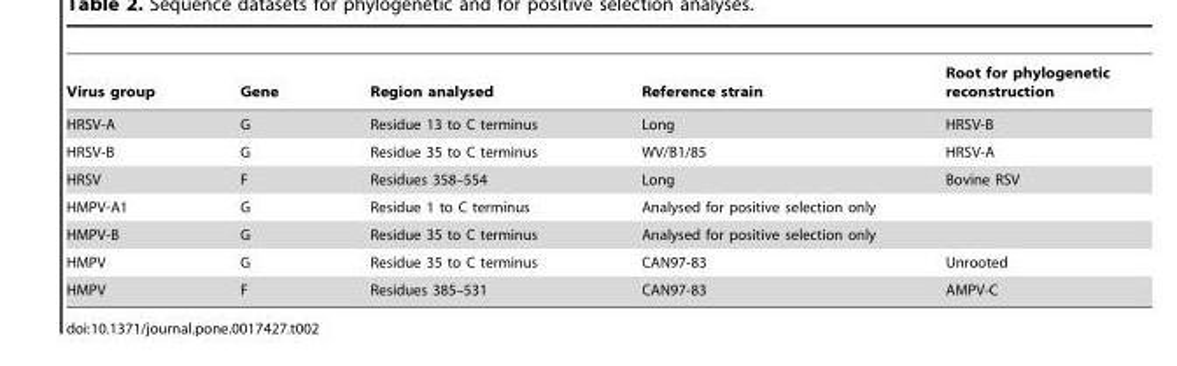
<table><thead><tr><td>Virus group</td><td>Gene</td><td>Region analysed</td><td>Reference strain</td><td>Root for phylogenetic reconstruction</td></tr></thead><tbody><tr><td>HRSV-A</td><td>G</td><td>Residue 13 to C terminus</td><td>Long</td><td>HRSV-B</td></tr><tr><td>HRSV-B</td><td>G</td><td>Residue 35 to C terminus</td><td>WV/B1/85</td><td>HRSV-A</td></tr><tr><td>HRSV</td><td>F</td><td>Residues 358–554</td><td>Long</td><td>Bovine RSV</td></tr><tr><td>HMPV-A1</td><td>G</td><td>Residue 1 to C terminus</td><td colspan="2">Analysed for positive selection only</td></tr><tr><td>HMPV-B</td><td>G</td><td>Residue 35 to C terminus</td><td colspan="2">Analysed for positive selection only</td></tr><tr><td>HMPV</td><td>G</td><td>Residue 35 to C terminus</td><td>CAN97-83</td><td>Unrooted</td></tr><tr><td>HMPV</td><td>F</td><td>Residues 385–531</td><td>CAN97-83</td><td>AMPV-C</td></tr></tbody></table>